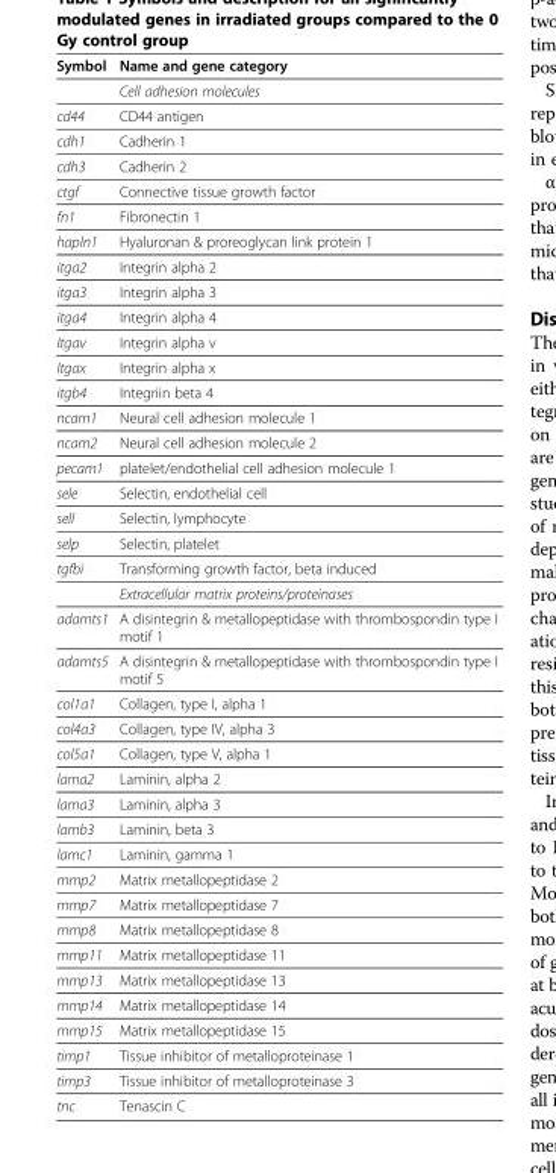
<table><thead><tr><td>Symbol</td><td>Name and gene category</td></tr></thead><tbody><tr><td></td><td>Cell adhesion molecules</td></tr><tr><td>cd44</td><td>CD44 antigen</td></tr><tr><td>cdh1</td><td>Cadherin 1</td></tr><tr><td>cdh3</td><td>Cadherin 2</td></tr><tr><td>ctgf</td><td>Connective tissue growth factor</td></tr><tr><td>fn1</td><td>Fibronectin 1</td></tr><tr><td>hapln1</td><td>Hyaluronan &amp; proreoglycan link protein 1</td></tr><tr><td>itga2</td><td>Integrin alpha 2</td></tr><tr><td>itga3</td><td>Integrin alpha 3</td></tr><tr><td>itga4</td><td>Integrin alpha 4</td></tr><tr><td>Itgav</td><td>Integrin alpha v</td></tr><tr><td>Itgax</td><td>Integrin alpha x</td></tr><tr><td>itgb4</td><td>Integriin beta 4</td></tr><tr><td>ncam1</td><td>Neural cell adhesion molecule 1</td></tr><tr><td>ncam2</td><td>Neural cell adhesion molecule 2</td></tr><tr><td>pecam1</td><td>platelet/endothelial cell adhesion molecule 1</td></tr><tr><td>sele</td><td>Selectin, endothelial cell</td></tr><tr><td>sell</td><td>Selectin, lymphocyte</td></tr><tr><td>selp</td><td>Selectin, platelet</td></tr><tr><td rowspan="2">tgfbi</td><td>Transforming growth factor, beta induced</td></tr><tr><td>Extracellular matrix proteins/proteinases</td></tr><tr><td>adamts1</td><td>A disintegrin &amp; metallopeptidase with thrombospondin type I motif 1</td></tr><tr><td>adamts5</td><td>A disintegrin &amp; metallopeptidase with thrombospondin type I motif 5</td></tr><tr><td>col1a1</td><td>Collagen, type I, alpha 1</td></tr><tr><td>col4a3</td><td>Collagen, type IV, alpha 3</td></tr><tr><td>col5a1</td><td>Collagen, type V, alpha 1</td></tr><tr><td>lama2</td><td>Laminin, alpha 2</td></tr><tr><td>lama3</td><td>Laminin, alpha 3</td></tr><tr><td>lamb3</td><td>Laminin, beta 3</td></tr><tr><td>lamc1</td><td>Laminin, gamma 1</td></tr><tr><td>mmp2</td><td>Matrix metallopeptidase 2</td></tr><tr><td>mmp7</td><td>Matrix metallopeptidase 7</td></tr><tr><td>mmp8</td><td>Matrix metallopeptidase 8</td></tr><tr><td>mmp11</td><td>Matrix metallopeptidase 11</td></tr><tr><td>mmp13</td><td>Matrix metallopeptidase 13</td></tr><tr><td>mmp14</td><td>Matrix metallopeptidase 14</td></tr><tr><td>mmp15</td><td>Matrix metallopeptidase 15</td></tr><tr><td>timp1</td><td>Tissue inhibitor of metalloproteinase 1</td></tr><tr><td>timp3</td><td>Tissue inhibitor of metalloproteinase 3</td></tr><tr><td>tnc</td><td>Tenascin C</td></tr></tbody></table>